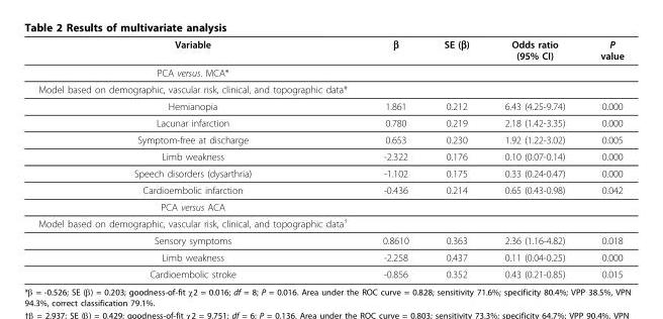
<table><thead><tr><td>Variable</td><td>β</td><td>SE (β)</td><td>Odds ratio (95% CI)</td><td>P value</td></tr></thead><tbody><tr><td colspan="5">PCA versus. MCA*</td></tr><tr><td colspan="5">Model based on demographic, vascular risk, clinical, and topographic data*</td></tr><tr><td>Hemianopia</td><td>1.861</td><td>0.212</td><td>6.43 (4.25-9.74)</td><td>0.000</td></tr><tr><td>Lacunar infarction</td><td>0.780</td><td>0.219</td><td>2.18 (1.42-3.35)</td><td>0.000</td></tr><tr><td>Symptom-free at discharge</td><td>0.653</td><td>0.230</td><td>1.92 (1.22-3.02)</td><td>0.005</td></tr><tr><td>Limb weakness</td><td>-2.322</td><td>0.176</td><td>0.10 (0.07-0.14)</td><td>0.000</td></tr><tr><td>Speech disorders (dysarthria)</td><td>-1.102</td><td>0.175</td><td>0.33 (0.24-0.47)</td><td>0.000</td></tr><tr><td>Cardioembolic infarction</td><td>-0.436</td><td>0.214</td><td>0.65 (0.43-0.98)</td><td>0.042</td></tr><tr><td colspan="5">PCA versus ACA</td></tr><tr><td colspan="5">Model based on demographic, vascular risk, clinical, and topographic data<sup>†</sup></td></tr><tr><td>Sensory symptoms</td><td>0.8610</td><td>0.363</td><td>2.36 (1.16-4.82)</td><td>0.018</td></tr><tr><td>Limb weakness</td><td>-2.258</td><td>0.437</td><td>0.11 (0.04-0.25)</td><td>0.000</td></tr><tr><td>Cardioembolic stroke</td><td>-0.856</td><td>0.352</td><td>0.43 (0.21-0.85)</td><td>0.015</td></tr></tbody></table>